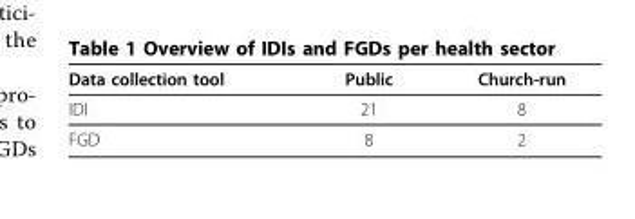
<table><thead><tr><td>Data collection tool</td><td>Public</td><td>Church-run</td></tr></thead><tbody><tr><td>IDI</td><td>21</td><td>8</td></tr><tr><td>FGD</td><td>8</td><td>2</td></tr></tbody></table>